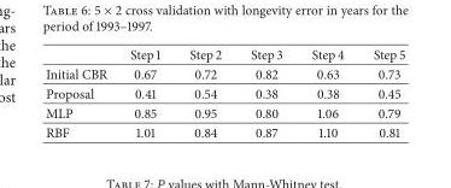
<table><thead><tr><td></td><td>Step 1</td><td>Step 2</td><td>Step 3</td><td>Step 4</td><td>Step 5</td></tr></thead><tbody><tr><td>Initial CBR</td><td>0.67</td><td>0.72</td><td>0.82</td><td>0.63</td><td>0.73</td></tr><tr><td>Proposal</td><td>0.41</td><td>0.54</td><td>0.38</td><td>0.38</td><td>0.45</td></tr><tr><td>MLP</td><td>0.85</td><td>0.95</td><td>0.80</td><td>1.06</td><td>0.79</td></tr><tr><td>RBF</td><td>1.01</td><td>0.84</td><td>0.87</td><td>1.10</td><td>0.81</td></tr></tbody></table>